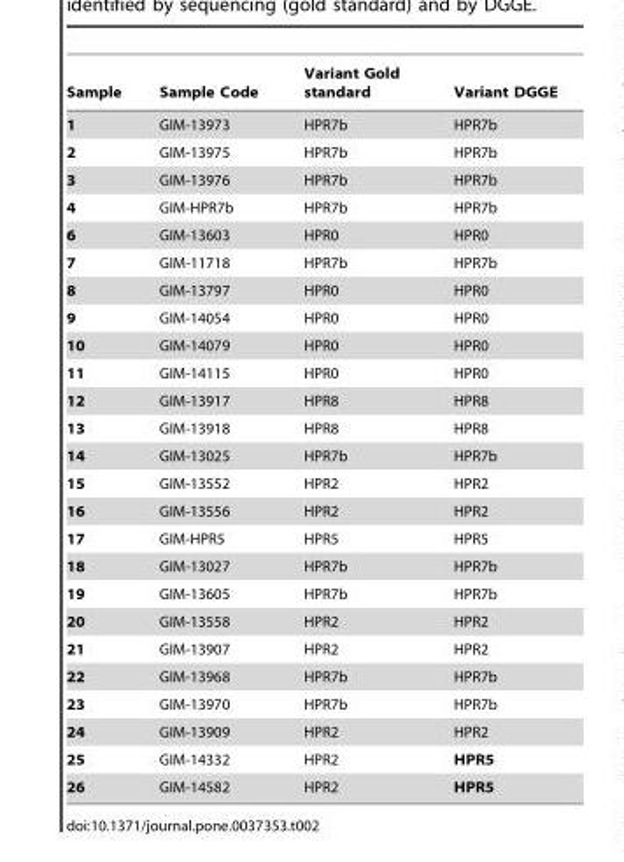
<table><thead><tr><td>Sample</td><td>Sample Code</td><td>Variant Gold standard</td><td>Variant DGGE</td></tr></thead><tbody><tr><td>1</td><td>GIM-13973</td><td>HPR7b</td><td>HPR7b</td></tr><tr><td>2</td><td>GIM-13975</td><td>HPR7b</td><td>HPR7b</td></tr><tr><td>3</td><td>GIM-13976</td><td>HPR7b</td><td>HPR7b</td></tr><tr><td>4</td><td>GIM-HPR7b</td><td>HPR7b</td><td>HPR7b</td></tr><tr><td>6</td><td>GIM-13603</td><td>HPR0</td><td>HPR0</td></tr><tr><td>7</td><td>GIM-11718</td><td>HPR7b</td><td>HPR7b</td></tr><tr><td>8</td><td>GIM-13797</td><td>HPR0</td><td>HPR0</td></tr><tr><td>9</td><td>GIM-14054</td><td>HPR0</td><td>HPR0</td></tr><tr><td>10</td><td>GIM-14079</td><td>HPR0</td><td>HPR0</td></tr><tr><td>11</td><td>GIM-14115</td><td>HPR0</td><td>HPR0</td></tr><tr><td>12</td><td>GIM-13917</td><td>HPR8</td><td>HPR8</td></tr><tr><td>13</td><td>GIM-13918</td><td>HPR8</td><td>HPR8</td></tr><tr><td>14</td><td>GIM-13025</td><td>HPR7b</td><td>HPR7b</td></tr><tr><td>15</td><td>GIM-13552</td><td>HPR2</td><td>HPR2</td></tr><tr><td>16</td><td>GIM-13556</td><td>HPR2</td><td>HPR2</td></tr><tr><td>17</td><td>GIM-HPR5</td><td>HPR5</td><td>HPR5</td></tr><tr><td>18</td><td>GIM-13027</td><td>HPR7b</td><td>HPR7b</td></tr><tr><td>19</td><td>GIM-13605</td><td>HPR7b</td><td>HPR7b</td></tr><tr><td>20</td><td>GIM-13558</td><td>HPR2</td><td>HPR2</td></tr><tr><td>21</td><td>GIM-13907</td><td>HPR2</td><td>HPR2</td></tr><tr><td>22</td><td>GIM-13968</td><td>HPR7b</td><td>HPR7b</td></tr><tr><td>23</td><td>GIM-13970</td><td>HPR7b</td><td>HPR7b</td></tr><tr><td>24</td><td>GIM-13909</td><td>HPR2</td><td>HPR2</td></tr><tr><td>25</td><td>GIM-14332</td><td>HPR2</td><td>HPR5</td></tr><tr><td>26</td><td>GIM-14582</td><td>HPR2</td><td>HPR5</td></tr></tbody></table>